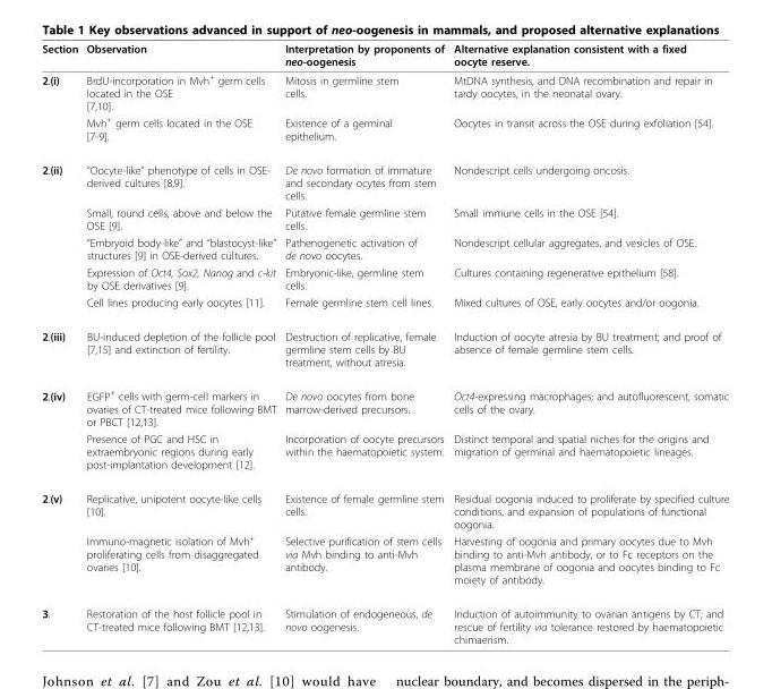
<table><thead><tr><td>Section</td><td>Observation</td><td>Interpretation by proponents of neo-oogenesis</td><td>Alternative explanation consistent with a fixed oocyte reserve.</td></tr></thead><tbody><tr><td rowspan="2">2.(i)</td><td>BrdU-incorporation in Mvh<sup>+</sup> germ cells located in the OSE [7,10].</td><td>Mitosis in germline stem cells.</td><td>MtDNA synthesis, and DNA recombination and repair in tardy oocytes, in the neonatal ovary.</td></tr><tr><td>Mvh<sup>+</sup> germ cells located in the OSE [7-9].</td><td>Existence of a germinal epithelium.</td><td>Oocytes in transit across the OSE during exfoliation [54].</td></tr><tr><td rowspan="5">2.(ii)</td><td>“Oocyte-like” phenotype of cells in OSE- derived cultures [8,9].</td><td>De novo formation of immature and secondary ocytes from stem cells.</td><td>Nondescript cells undergoing oncosis.</td></tr><tr><td>Small, round cells, above and below the OSE [9].</td><td>Putative female germline stem cells.</td><td>Small immune cells in the OSE [54].</td></tr><tr><td>“Embryoid body-like” and “blastocyst-like” structures [9] in OSE-derived cultures.</td><td>Pathenogenetic activation of de novo oocytes.</td><td>Nondescript cellular aggregates, and vesicles of OSE.</td></tr><tr><td>Expression of Oct4, Sox2, Nanog and c-kit by OSE derivatives [9].</td><td>Embryonic-like, germline stem cells.</td><td>Cultures containing regenerative epithelium [58].</td></tr><tr><td>Cell lines producing early oocytes [11].</td><td>Female germline stem cell lines.</td><td>Mixed cultures of OSE, early oocytes and/or oogonia.</td></tr><tr><td>2.(iii)</td><td>BU-induced depletion of the follicle pool [7,15] and extinction of fertility.</td><td>Destruction of replicative, female germline stem cells by BU treatment, without atresia.</td><td>Induction of oocyte atresia by BU treatment; and proof of absence of female germline stem cells.</td></tr><tr><td rowspan="2">2.(iv)</td><td>EGFP<sup>+</sup> cells with germ-cell markers in ovaries of CT-treated mice following BMT or PBCT [12,13].</td><td>De novo oocytes from bone marrow-derived precursors.</td><td>Oct4-expressing macrophages; and autofluorescent, somatic cells of the ovary.</td></tr><tr><td>Presence of PGC and HSC in extraembryonic regions during early post-implantation development [12].</td><td>Incorporation of oocyte precursors within the haematopoietic system.</td><td>Distinct temporal and spatial niches for the origins and migration of germinal and haematopoietic lineages.</td></tr><tr><td rowspan="2">2.(v)</td><td>Replicative, unipotent oocyte-like cells [10].</td><td>Existence of female germline stem cells.</td><td>Residual oogonia induced to proliferate by specified culture conditions, and expansion of populations of functional oogonia.</td></tr><tr><td>Immuno-magnetic isolation of Mvh<sup>+</sup> proliferating cells from disaggregated ovaries [10].</td><td>Selective purification of stem cells via Mvh binding to anti-Mvh antibody.</td><td>Harvesting of oogonia and primary oocytes due to Mvh binding to anti-Mvh antibody, or to Fc receptors on the plasma membrane of oogonia and oocytes binding to Fc moiety of antibody.</td></tr><tr><td>3.</td><td>Restoration of the host follicle pool in CT-treated mice following BMT [12,13].</td><td>Stimulation of endogeneous, de novo oogenesis.</td><td>Induction of autoimmunity to ovarian antigens by CT; and rescue of fertility via tolerance restored by haematopoietic chimaerism.</td></tr></tbody></table>